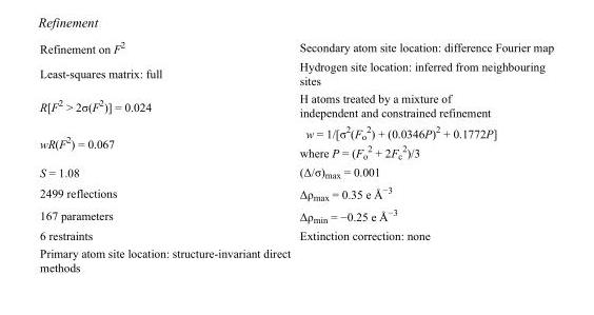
<table><tbody><tr><td>Refinement on F<sup>2</sup></td><td>Secondary atom site location: difference Fourier map</td></tr><tr><td>Least-squares matrix: full</td><td>Hydrogen site location: inferred from neighbouring sites</td></tr><tr><td>R[F<sup>2</sup> &gt; 2σ(F<sup>2</sup>)] = 0.024</td><td>H atoms treated by a mixture of independent and constrained refinement</td></tr><tr><td>wR(F<sup>2</sup>) = 0.067</td><td>w = 1/[σ<sup>2</sup>(F<sub>o</sub> <sup>2</sup>) + (0.0346P)<sup>2</sup> + 0.1772P] where P = (F<sub>o</sub> <sup>2</sup> + 2F<sub>c</sub> <sup>2</sup>)/3</td></tr><tr><td>S = 1.08</td><td>(Δ/σ)<sub>max</sub> = 0.001</td></tr><tr><td>2499 reflections</td><td>Δρ<sub>max</sub> = 0.35 e Å<sup>−3</sup></td></tr><tr><td>167 parameters</td><td>Δρ<sub>min</sub> = −0.25 e Å<sup>−3</sup></td></tr><tr><td>6 restraints</td><td>Extinction correction: none</td></tr><tr><td>Primary atom site location: structure-invariant direct methods</td><td></td></tr></tbody></table>